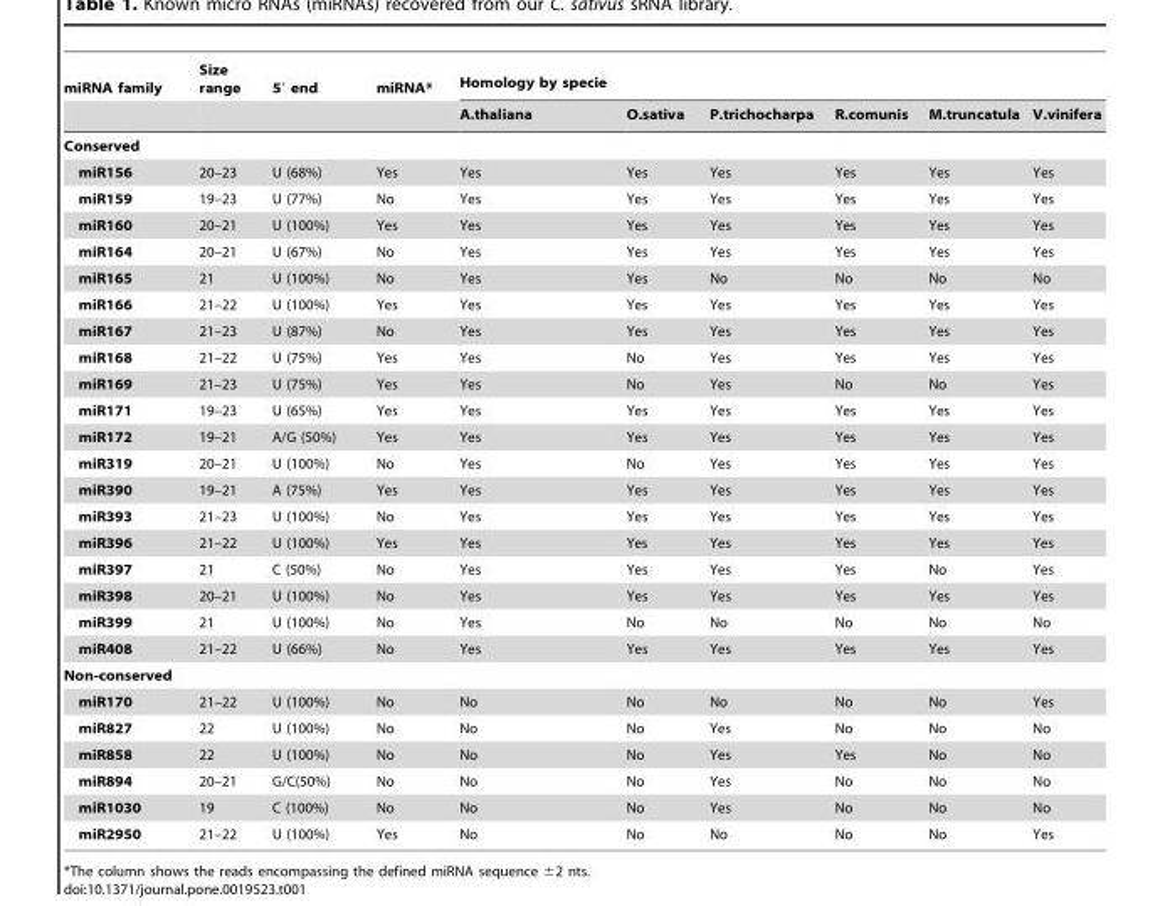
<table><thead><tr><td rowspan="2">miRNA family</td><td rowspan="2">Size range</td><td rowspan="2">5′ end</td><td rowspan="2">miRNA*</td><td colspan="6">Homology by specie</td></tr><tr><td>A.thaliana</td><td>O.sativa</td><td>P.trichocharpa</td><td>R.comunis</td><td>M.truncatula</td><td>V.vinifera</td></tr></thead><tbody><tr><td colspan="10">Conserved</td></tr><tr><td>miR156</td><td>20–23</td><td>U (68%)</td><td>Yes</td><td>Yes</td><td>Yes</td><td>Yes</td><td>Yes</td><td>Yes</td><td>Yes</td></tr><tr><td>miR159</td><td>19–23</td><td>U (77%)</td><td>No</td><td>Yes</td><td>Yes</td><td>Yes</td><td>Yes</td><td>Yes</td><td>Yes</td></tr><tr><td>miR160</td><td>20–21</td><td>U (100%)</td><td>Yes</td><td>Yes</td><td>Yes</td><td>Yes</td><td>Yes</td><td>Yes</td><td>Yes</td></tr><tr><td>miR164</td><td>20–21</td><td>U (67%)</td><td>No</td><td>Yes</td><td>Yes</td><td>Yes</td><td>Yes</td><td>Yes</td><td>Yes</td></tr><tr><td>miR165</td><td>21</td><td>U (100%)</td><td>No</td><td>Yes</td><td>Yes</td><td>No</td><td>No</td><td>No</td><td>No</td></tr><tr><td>miR166</td><td>21–22</td><td>U (100%)</td><td>Yes</td><td>Yes</td><td>Yes</td><td>Yes</td><td>Yes</td><td>Yes</td><td>Yes</td></tr><tr><td>miR167</td><td>21–23</td><td>U (87%)</td><td>No</td><td>Yes</td><td>Yes</td><td>Yes</td><td>Yes</td><td>Yes</td><td>Yes</td></tr><tr><td>miR168</td><td>21–22</td><td>U (75%)</td><td>Yes</td><td>Yes</td><td>No</td><td>Yes</td><td>Yes</td><td>Yes</td><td>Yes</td></tr><tr><td>miR169</td><td>21–23</td><td>U (75%)</td><td>Yes</td><td>Yes</td><td>No</td><td>Yes</td><td>No</td><td>No</td><td>Yes</td></tr><tr><td>miR171</td><td>19–23</td><td>U (65%)</td><td>Yes</td><td>Yes</td><td>Yes</td><td>Yes</td><td>Yes</td><td>Yes</td><td>Yes</td></tr><tr><td>miR172</td><td>19–21</td><td>A/G (50%)</td><td>Yes</td><td>Yes</td><td>Yes</td><td>Yes</td><td>Yes</td><td>Yes</td><td>Yes</td></tr><tr><td>miR319</td><td>20–21</td><td>U (100%)</td><td>No</td><td>Yes</td><td>No</td><td>Yes</td><td>Yes</td><td>Yes</td><td>Yes</td></tr><tr><td>miR390</td><td>19–21</td><td>A (75%)</td><td>Yes</td><td>Yes</td><td>Yes</td><td>Yes</td><td>Yes</td><td>Yes</td><td>Yes</td></tr><tr><td>miR393</td><td>21–23</td><td>U (100%)</td><td>No</td><td>Yes</td><td>Yes</td><td>Yes</td><td>Yes</td><td>Yes</td><td>Yes</td></tr><tr><td>miR396</td><td>21–22</td><td>U (100%)</td><td>Yes</td><td>Yes</td><td>Yes</td><td>Yes</td><td>Yes</td><td>Yes</td><td>Yes</td></tr><tr><td>miR397</td><td>21</td><td>C (50%)</td><td>No</td><td>Yes</td><td>Yes</td><td>Yes</td><td>Yes</td><td>No</td><td>Yes</td></tr><tr><td>miR398</td><td>20–21</td><td>U (100%)</td><td>No</td><td>Yes</td><td>Yes</td><td>Yes</td><td>Yes</td><td>Yes</td><td>Yes</td></tr><tr><td>miR399</td><td>21</td><td>U (100%)</td><td>No</td><td>Yes</td><td>No</td><td>No</td><td>No</td><td>No</td><td>No</td></tr><tr><td>miR408</td><td>21–22</td><td>U (66%)</td><td>No</td><td>Yes</td><td>Yes</td><td>Yes</td><td>Yes</td><td>Yes</td><td>Yes</td></tr><tr><td colspan="10">Non-conserved</td></tr><tr><td>miR170</td><td>21–22</td><td>U (100%)</td><td>No</td><td>No</td><td>No</td><td>No</td><td>No</td><td>No</td><td>Yes</td></tr><tr><td>miR827</td><td>22</td><td>U (100%)</td><td>No</td><td>No</td><td>No</td><td>Yes</td><td>No</td><td>No</td><td>No</td></tr><tr><td>miR858</td><td>22</td><td>U (100%)</td><td>No</td><td>No</td><td>No</td><td>Yes</td><td>Yes</td><td>No</td><td>No</td></tr><tr><td>miR894</td><td>20–21</td><td>G/C(50%)</td><td>No</td><td>No</td><td>No</td><td>Yes</td><td>No</td><td>No</td><td>No</td></tr><tr><td>miR1030</td><td>19</td><td>C (100%)</td><td>No</td><td>No</td><td>No</td><td>Yes</td><td>No</td><td>No</td><td>No</td></tr><tr><td>miR2950</td><td>21–22</td><td>U (100%)</td><td>Yes</td><td>No</td><td>No</td><td>No</td><td>No</td><td>No</td><td>Yes</td></tr></tbody></table>